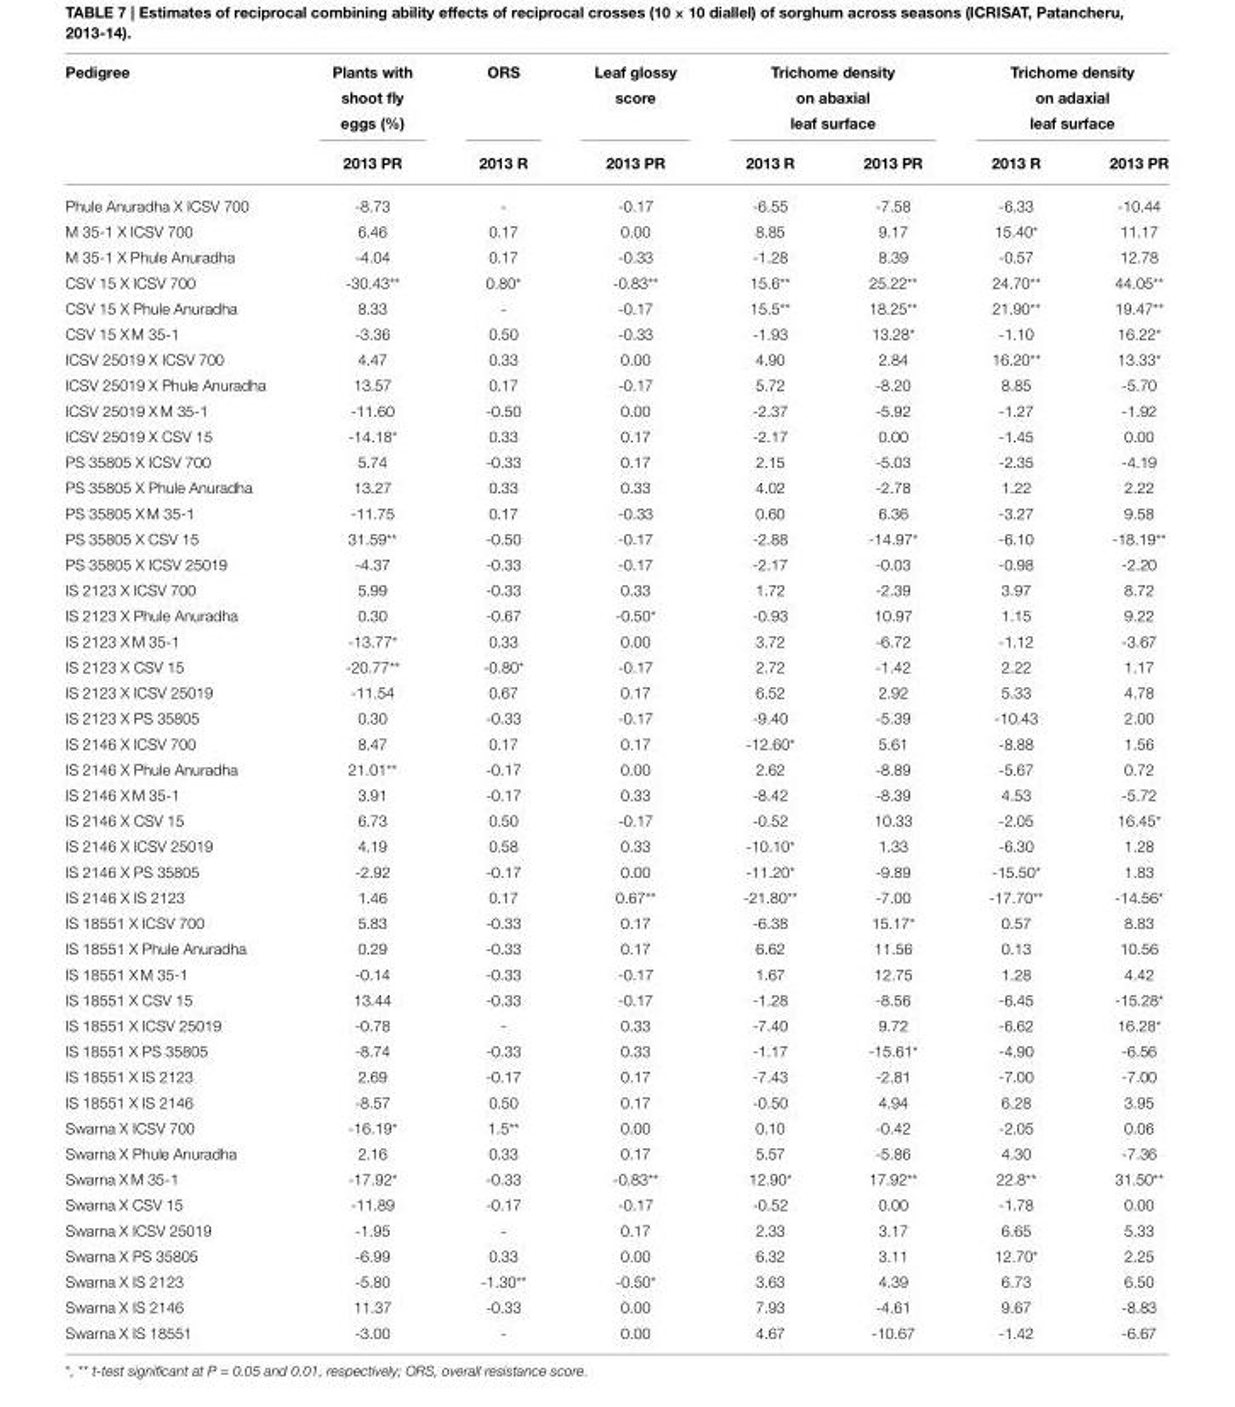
<table><thead><tr><td rowspan="2">Pedigree</td><td rowspan="2">Plants with shoot fly eggs (%) 2013 PR</td><td rowspan="2">ORS 2013 R</td><td rowspan="2">Leaf glossy score 2013 PR</td><td colspan="2">Trichome density on abaxial leaf surface</td><td colspan="2">Trichome density on adaxial leaf surface</td></tr><tr><td>2013 R</td><td>2013 PR</td><td>2013 R</td><td>2013 PR</td></tr></thead><tbody><tr><td>Phule Anuradha X ICSV 700</td><td>-8.73</td><td>-</td><td>-0.17</td><td>-6.55</td><td>-7.58</td><td>-6.33</td><td>-10.44</td></tr><tr><td>M 35-1 X ICSV 700</td><td>6.46</td><td>0.17</td><td>0.00</td><td>8.85</td><td>9.17</td><td>15.40*</td><td>11.17</td></tr><tr><td>M 35-1 X Phule Anuradha</td><td>-4.04</td><td>0.17</td><td>-0.33</td><td>-1.28</td><td>8.39</td><td>-0.57</td><td>12.78</td></tr><tr><td>CSV 15 X ICSV 700</td><td>-30.43**</td><td>0.80*</td><td>-0.83**</td><td>15.6**</td><td>25.22**</td><td>24.70**</td><td>44.05**</td></tr><tr><td>CSV 15 X Phule Anuradha</td><td>8.33</td><td>-</td><td>-0.17</td><td>15.5**</td><td>18.25**</td><td>21.90**</td><td>19.47**</td></tr><tr><td>CSV 15 X M 35-1</td><td>-3.36</td><td>0.50</td><td>-0.33</td><td>-1.93</td><td>13.28*</td><td>-1.10</td><td>16.22*</td></tr><tr><td>ICSV 25019 X ICSV 700</td><td>4.47</td><td>0.33</td><td>0.00</td><td>4.90</td><td>2.84</td><td>16.20**</td><td>13.33*</td></tr><tr><td>ICSV 25019 X Phule Anuradha</td><td>13.57</td><td>0.17</td><td>-0.17</td><td>5.72</td><td>-8.20</td><td>8.85</td><td>-5.70</td></tr><tr><td>ICSV 25019 X M 35-1</td><td>-11.60</td><td>-0.50</td><td>0.00</td><td>-2.37</td><td>-5.92</td><td>-1.27</td><td>-1.92</td></tr><tr><td>ICSV 25019 X CSV 15</td><td>-14.18*</td><td>0.33</td><td>0.17</td><td>-2.17</td><td>0.00</td><td>-1.45</td><td>0.00</td></tr><tr><td>PS 35805 X ICSV 700</td><td>5.74</td><td>-0.33</td><td>0.17</td><td>2.15</td><td>-5.03</td><td>-2.35</td><td>-4.19</td></tr><tr><td>PS 35805 X Phule Anuradha</td><td>13.27</td><td>0.33</td><td>0.33</td><td>4.02</td><td>-2.78</td><td>1.22</td><td>2.22</td></tr><tr><td>PS 35805 X M 35-1</td><td>-11.75</td><td>0.17</td><td>-0.33</td><td>0.60</td><td>6.36</td><td>-3.27</td><td>9.58</td></tr><tr><td>PS 35805 X CSV 15</td><td>31.59**</td><td>-0.50</td><td>-0.17</td><td>-2.88</td><td>-14.97*</td><td>-6.10</td><td>-18.19**</td></tr><tr><td>PS 35805 X ICSV 25019</td><td>-4.37</td><td>-0.33</td><td>-0.17</td><td>-2.17</td><td>-0.03</td><td>-0.98</td><td>-2.20</td></tr><tr><td>IS 2123 X ICSV 700</td><td>5.99</td><td>-0.33</td><td>0.33</td><td>1.72</td><td>-2.39</td><td>3.97</td><td>8.72</td></tr><tr><td>IS 2123 X Phule Anuradha</td><td>0.30</td><td>-0.67</td><td>-0.50*</td><td>-0.93</td><td>10.97</td><td>1.15</td><td>9.22</td></tr><tr><td>IS 2123 X M 35-1</td><td>-13.77*</td><td>0.33</td><td>0.00</td><td>3.72</td><td>-6.72</td><td>-1.12</td><td>-3.67</td></tr><tr><td>IS 2123 X CSV 15</td><td>-20.77**</td><td>-0.80*</td><td>-0.17</td><td>2.72</td><td>-1.42</td><td>2.22</td><td>1.17</td></tr><tr><td>IS 2123 X ICSV 25019</td><td>-11.54</td><td>0.67</td><td>0.17</td><td>6.52</td><td>2.92</td><td>5.33</td><td>4.78</td></tr><tr><td>IS 2123 X PS 35805</td><td>0.30</td><td>-0.33</td><td>-0.17</td><td>-9.40</td><td>-5.39</td><td>-10.43</td><td>2.00</td></tr><tr><td>IS 2146 X ICSV 700</td><td>8.47</td><td>0.17</td><td>0.17</td><td>-12.60*</td><td>5.61</td><td>-8.88</td><td>1.56</td></tr><tr><td>IS 2146 X Phule Anuradha</td><td>21.01**</td><td>-0.17</td><td>0.00</td><td>2.62</td><td>-8.89</td><td>-5.67</td><td>0.72</td></tr><tr><td>IS 2146 X M 35-1</td><td>3.91</td><td>-0.17</td><td>0.33</td><td>-8.42</td><td>-8.39</td><td>4.53</td><td>-5.72</td></tr><tr><td>IS 2146 X CSV 15</td><td>6.73</td><td>0.50</td><td>-0.17</td><td>-0.52</td><td>10.33</td><td>-2.05</td><td>16.45*</td></tr><tr><td>IS 2146 X ICSV 25019</td><td>4.19</td><td>0.58</td><td>0.33</td><td>-10.10*</td><td>1.33</td><td>-6.30</td><td>1.28</td></tr><tr><td>IS 2146 X PS 35805</td><td>-2.92</td><td>-0.17</td><td>0.00</td><td>-11.20*</td><td>-9.89</td><td>-15.50*</td><td>1.83</td></tr><tr><td>IS 2146 X IS 2123</td><td>1.46</td><td>0.17</td><td>0.67**</td><td>-21.80**</td><td>-7.00</td><td>-17.70**</td><td>-14.56*</td></tr><tr><td>IS 18551 X ICSV 700</td><td>5.83</td><td>-0.33</td><td>0.17</td><td>-6.38</td><td>15.17*</td><td>0.57</td><td>8.83</td></tr><tr><td>IS 18551 X Phule Anuradha</td><td>0.29</td><td>-0.33</td><td>0.17</td><td>6.62</td><td>11.56</td><td>0.13</td><td>10.56</td></tr><tr><td>IS 18551 X M 35-1</td><td>-0.14</td><td>-0.33</td><td>-0.17</td><td>1.67</td><td>12.75</td><td>1.28</td><td>4.42</td></tr><tr><td>IS 18551 X CSV 15</td><td>13.44</td><td>-0.33</td><td>-0.17</td><td>-1.28</td><td>-8.56</td><td>-6.45</td><td>-15.28*</td></tr><tr><td>IS 18551 X ICSV 25019</td><td>-0.78</td><td>-</td><td>0.33</td><td>-7.40</td><td>9.72</td><td>-6.62</td><td>16.28*</td></tr><tr><td>IS 18551 X PS 35805</td><td>-8.74</td><td>-0.33</td><td>0.33</td><td>-1.17</td><td>-15.61*</td><td>-4.90</td><td>-6.56</td></tr><tr><td>IS 18551 X IS 2123</td><td>2.69</td><td>-0.17</td><td>0.17</td><td>-7.43</td><td>-2.81</td><td>-7.00</td><td>-7.00</td></tr><tr><td>IS 18551 X IS 2146</td><td>-8.57</td><td>0.50</td><td>0.17</td><td>-0.50</td><td>4.94</td><td>6.28</td><td>3.95</td></tr><tr><td>Swarna X ICSV 700</td><td>-16.19*</td><td>1.5**</td><td>0.00</td><td>0.10</td><td>-0.42</td><td>-2.05</td><td>0.06</td></tr><tr><td>Swarna X Phule Anuradha</td><td>2.16</td><td>0.33</td><td>0.17</td><td>5.57</td><td>-5.86</td><td>4.30</td><td>-7.36</td></tr><tr><td>Swarna X M 35-1</td><td>-17.92*</td><td>-0.33</td><td>-0.83**</td><td>12.90*</td><td>17.92**</td><td>22.8**</td><td>31.50**</td></tr><tr><td>Swarna X CSV 15</td><td>-11.89</td><td>-0.17</td><td>-0.17</td><td>-0.52</td><td>0.00</td><td>-1.78</td><td>0.00</td></tr><tr><td>Swarna X ICSV 25019</td><td>-1.95</td><td>-</td><td>0.17</td><td>2.33</td><td>3.17</td><td>6.65</td><td>5.33</td></tr><tr><td>Swarna X PS 35805</td><td>-6.99</td><td>0.33</td><td>0.00</td><td>6.32</td><td>3.11</td><td>12.70*</td><td>2.25</td></tr><tr><td>Swarna X IS 2123</td><td>-5.80</td><td>-1.30**</td><td>-0.50*</td><td>3.63</td><td>4.39</td><td>6.73</td><td>6.50</td></tr><tr><td>Swarna X IS 2146</td><td>11.37</td><td>-0.33</td><td>0.00</td><td>7.93</td><td>-4.61</td><td>9.67</td><td>-8.83</td></tr><tr><td>Swarna X IS 18551</td><td>-3.00</td><td>-</td><td>0.00</td><td>4.67</td><td>-10.67</td><td>-1.42</td><td>-6.67</td></tr></tbody></table>